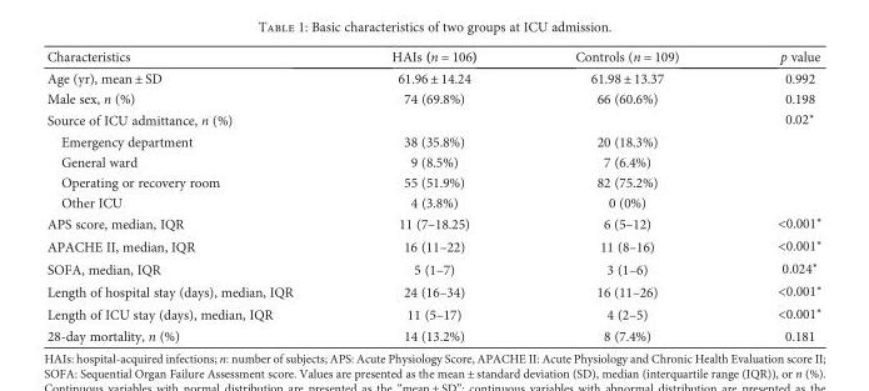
<table><thead><tr><td>Characteristics</td><td>HAIs (n = 106)</td><td>Controls (n = 109)</td><td>p value</td></tr></thead><tbody><tr><td>Age (yr), mean ± SD</td><td>61.96 ± 14.24</td><td>61.98 ± 13.37</td><td>0.992</td></tr><tr><td>Male sex, n (%)</td><td>74 (69.8%)</td><td>66 (60.6%)</td><td>0.198</td></tr><tr><td>Source of ICU admittance, n (%)</td><td></td><td></td><td>0.02∗</td></tr><tr><td>Emergency department</td><td>38 (35.8%)</td><td>20 (18.3%)</td><td></td></tr><tr><td>General ward</td><td>9 (8.5%)</td><td>7 (6.4%)</td><td></td></tr><tr><td>Operating or recovery room</td><td>55 (51.9%)</td><td>82 (75.2%)</td><td></td></tr><tr><td>Other ICU</td><td>4 (3.8%)</td><td>0 (0%)</td><td></td></tr><tr><td>APS score, median, IQR</td><td>11 (7–18.25)</td><td>6 (5–12)</td><td>&lt;0.001∗</td></tr><tr><td>APACHE II, median, IQR</td><td>16 (11–22)</td><td>11 (8–16)</td><td>&lt;0.001∗</td></tr><tr><td>SOFA, median, IQR</td><td>5 (1–7)</td><td>3 (1–6)</td><td>0.024∗</td></tr><tr><td>Length of hospital stay (days), median, IQR</td><td>24 (16–34)</td><td>16 (11–26)</td><td>&lt;0.001∗</td></tr><tr><td>Length of ICU stay (days), median, IQR</td><td>11 (5–17)</td><td>4 (2–5)</td><td>&lt;0.001∗</td></tr><tr><td>28-day mortality, n (%)</td><td>14 (13.2%)</td><td>8 (7.4%)</td><td>0.181</td></tr></tbody></table>